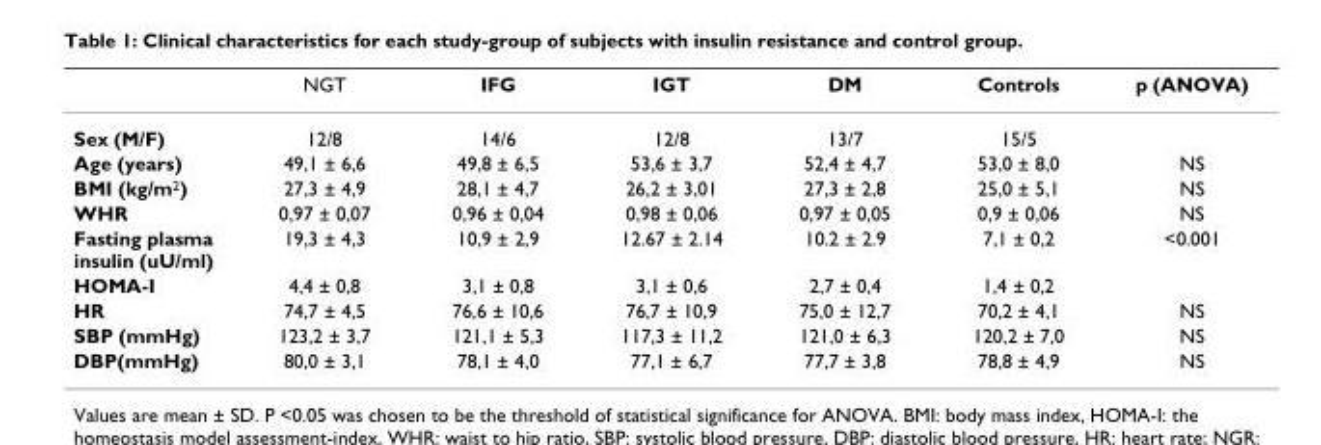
<table><thead><tr><td></td><td>NGT</td><td>IFG</td><td>IGT</td><td>DM</td><td>Controls</td><td>p (ANOVA)</td></tr></thead><tbody><tr><td>Sex (M/F)</td><td>12/8</td><td>14/6</td><td>12/8</td><td>13/7</td><td>15/5</td><td></td></tr><tr><td>Age (years)</td><td>49,1 ± 6,6</td><td>49,8 ± 6,5</td><td>53,6 ± 3,7</td><td>52,4 ± 4,7</td><td>53,0 ± 8,0</td><td>NS</td></tr><tr><td>BMI (kg/m<sup>2</sup>)</td><td>27,3 ± 4,9</td><td>28,1 ± 4,7</td><td>26,2 ± 3,01</td><td>27,3 ± 2,8</td><td>25,0 ± 5,1</td><td>NS</td></tr><tr><td>WHR</td><td>0,97 ± 0,07</td><td>0,96 ± 0,04</td><td>0,98 ± 0,06</td><td>0,97 ± 0,05</td><td>0,9 ± 0,06</td><td>NS</td></tr><tr><td>Fasting plasma insulin (uU/ml)</td><td>19,3 ± 4,3</td><td>10,9 ± 2,9</td><td>12.67 ± 2.14</td><td>10.2 ± 2.9</td><td>7,1 ± 0,2</td><td>&lt;0.001</td></tr><tr><td>HOMA-I</td><td>4,4 ± 0,8</td><td>3,1 ± 0,8</td><td>3,1 ± 0,6</td><td>2,7 ± 0,4</td><td>1,4 ± 0,2</td><td></td></tr><tr><td>HR</td><td>74,7 ± 4,5</td><td>76,6 ± 10,6</td><td>76,7 ± 10,9</td><td>75,0 ± 12,7</td><td>70,2 ± 4,1</td><td>NS</td></tr><tr><td>SBP (mmHg)</td><td>123,2 ± 3,7</td><td>121,1 ± 5,3</td><td>117,3 ± 11,2</td><td>121,0 ± 6,3</td><td>120,2 ± 7,0</td><td>NS</td></tr><tr><td>DBP(mmHg)</td><td>80,0 ± 3,1</td><td>78,1 ± 4,0</td><td>77,1 ± 6,7</td><td>77,7 ± 3,8</td><td>78,8 ± 4,9</td><td>NS</td></tr></tbody></table>